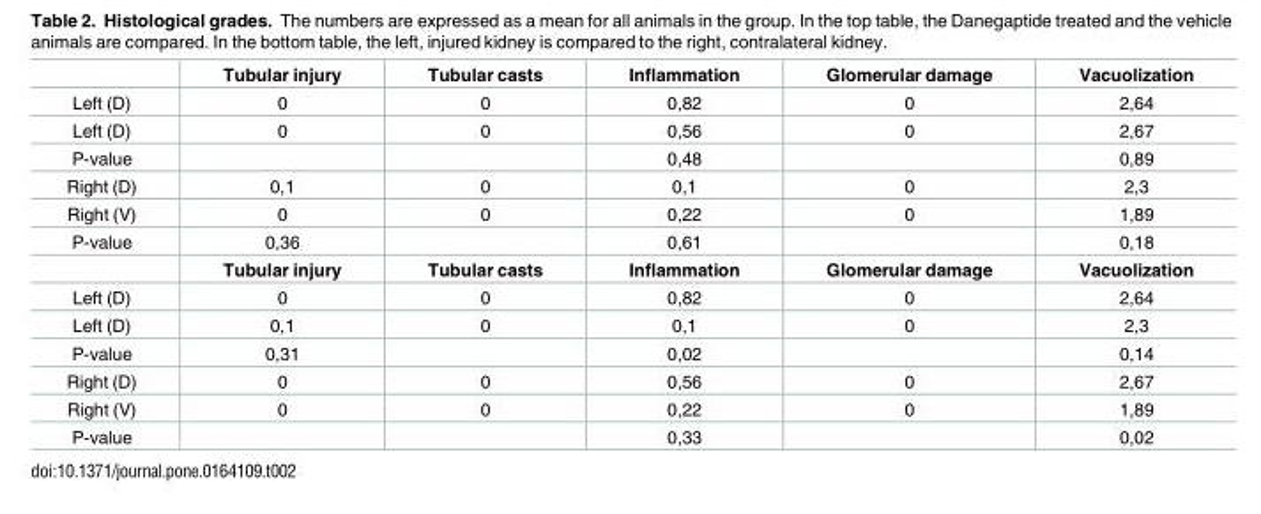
<table><thead><tr><td></td><td>Tubular injury</td><td>Tubular casts</td><td>Inflammation</td><td>Glomerular damage</td><td>Vacuolization</td></tr></thead><tbody><tr><td>Left (D)</td><td>0</td><td>0</td><td>0,82</td><td>0</td><td>2,64</td></tr><tr><td>Left (D)</td><td>0</td><td>0</td><td>0,56</td><td>0</td><td>2,67</td></tr><tr><td>P-value</td><td></td><td></td><td>0,48</td><td></td><td>0,89</td></tr><tr><td>Right (D)</td><td>0,1</td><td>0</td><td>0,1</td><td>0</td><td>2,3</td></tr><tr><td>Right (V)</td><td>0</td><td>0</td><td>0,22</td><td>0</td><td>1,89</td></tr><tr><td rowspan="2">P-value</td><td>0,36</td><td></td><td>0,61</td><td></td><td>0,18</td></tr><tr><td>Tubular injury</td><td>Tubular casts</td><td>Inflammation</td><td>Glomerular damage</td><td>Vacuolization</td></tr><tr><td>Left (D)</td><td>0</td><td>0</td><td>0,82</td><td>0</td><td>2,64</td></tr><tr><td>Left (D)</td><td>0,1</td><td>0</td><td>0,1</td><td>0</td><td>2,3</td></tr><tr><td>P-value</td><td>0,31</td><td></td><td>0,02</td><td></td><td>0,14</td></tr><tr><td>Right (D)</td><td>0</td><td>0</td><td>0,56</td><td>0</td><td>2,67</td></tr><tr><td>Right (V)</td><td>0</td><td>0</td><td>0,22</td><td>0</td><td>1,89</td></tr><tr><td>P-value</td><td></td><td></td><td>0,33</td><td></td><td>0,02</td></tr></tbody></table>